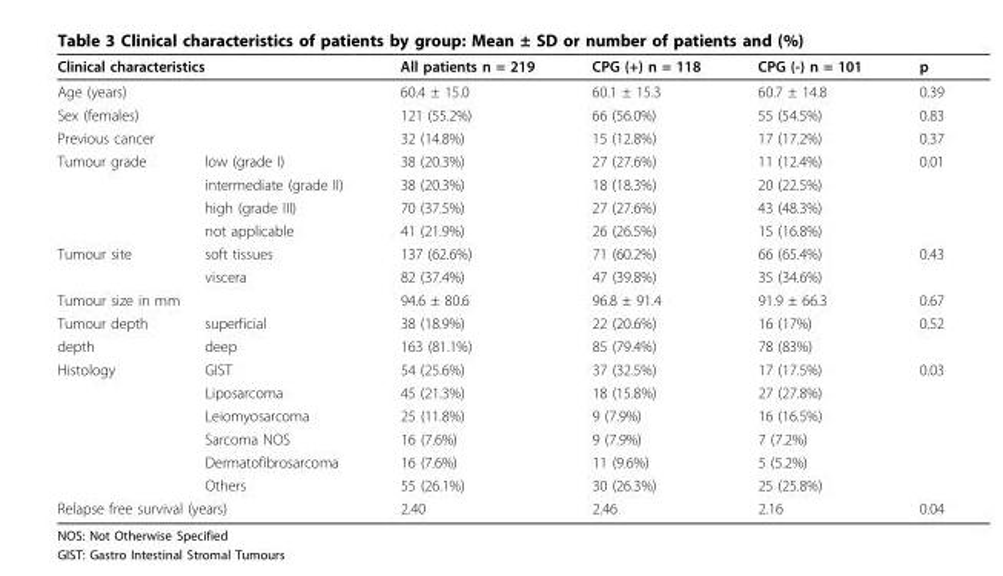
<table><thead><tr><td colspan="2">Clinical characteristics</td><td>All patients n = 219</td><td>CPG (+) n = 118</td><td>CPG (-) n = 101</td><td>p</td></tr></thead><tbody><tr><td colspan="2">Age (years)</td><td>60.4 ± 15.0</td><td>60.1 ± 15.3</td><td>60.7 ± 14.8</td><td>0.39</td></tr><tr><td colspan="2">Sex (females)</td><td>121 (55.2%)</td><td>66 (56.0%)</td><td>55 (54.5%)</td><td>0.83</td></tr><tr><td colspan="2">Previous cancer</td><td>32 (14.8%)</td><td>15 (12.8%)</td><td>17 (17.2%)</td><td>0.37</td></tr><tr><td rowspan="4">Tumour grade</td><td>low (grade I)</td><td>38 (20.3%)</td><td>27 (27.6%)</td><td>11 (12.4%)</td><td>0.01</td></tr><tr><td>intermediate (grade II)</td><td>38 (20.3%)</td><td>18 (18.3%)</td><td>20 (22.5%)</td><td></td></tr><tr><td>high (grade III)</td><td>70 (37.5%)</td><td>27 (27.6%)</td><td>43 (48.3%)</td><td></td></tr><tr><td>not applicable</td><td>41 (21.9%)</td><td>26 (26.5%)</td><td>15 (16.8%)</td><td></td></tr><tr><td rowspan="2">Tumour site</td><td>soft tissues</td><td>137 (62.6%)</td><td>71 (60.2%)</td><td>66 (65.4%)</td><td>0.43</td></tr><tr><td>viscera</td><td>82 (37.4%)</td><td>47 (39.8%)</td><td>35 (34.6%)</td><td></td></tr><tr><td colspan="2">Tumour size in mm</td><td>94.6 ± 80.6</td><td>96.8 ± 91.4</td><td>91.9 ± 66.3</td><td>0.67</td></tr><tr><td>Tumour depth</td><td>superficial</td><td>38 (18.9%)</td><td>22 (20.6%)</td><td>16 (17%)</td><td>0.52</td></tr><tr><td>depth</td><td>deep</td><td>163 (81.1%)</td><td>85 (79.4%)</td><td>78 (83%)</td><td></td></tr><tr><td rowspan="6">Histology</td><td>GIST</td><td>54 (25.6%)</td><td>37 (32.5%)</td><td>17 (17.5%)</td><td>0.03</td></tr><tr><td>Liposarcoma</td><td>45 (21.3%)</td><td>18 (15.8%)</td><td>27 (27.8%)</td><td></td></tr><tr><td>Leiomyosarcoma</td><td>25 (11.8%)</td><td>9 (7.9%)</td><td>16 (16.5%)</td><td></td></tr><tr><td>Sarcoma NOS</td><td>16 (7.6%)</td><td>9 (7.9%)</td><td>7 (7.2%)</td><td></td></tr><tr><td>Dermatofibrosarcoma</td><td>16 (7.6%)</td><td>11 (9.6%)</td><td>5 (5.2%)</td><td></td></tr><tr><td>Others</td><td>55 (26.1%)</td><td>30 (26.3%)</td><td>25 (25.8%)</td><td></td></tr><tr><td colspan="2">Relapse free survival (years)</td><td>2.40</td><td>2.46</td><td>2.16</td><td>0.04</td></tr></tbody></table>